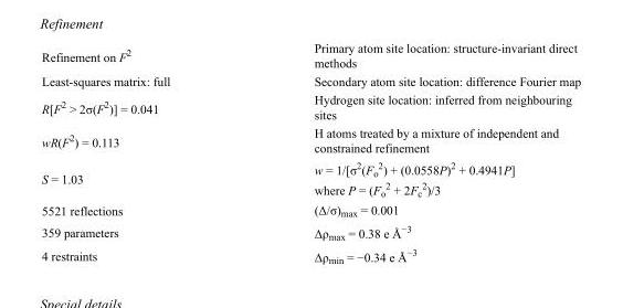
<table><tbody><tr><td>Refinement on F<sup>2</sup></td><td>Primary atom site location: structure-invariant direct methods</td></tr><tr><td>Least-squares matrix: full</td><td>Secondary atom site location: difference Fourier map</td></tr><tr><td>R[F<sup>2</sup> &gt; 2σ(F<sup>2</sup>)] = 0.041</td><td>Hydrogen site location: inferred from neighbouring sites</td></tr><tr><td>wR(F<sup>2</sup>) = 0.113</td><td>H atoms treated by a mixture of independent and constrained refinement</td></tr><tr><td>S = 1.03</td><td>w = 1/[σ<sup>2</sup>(F<sub>o</sub> <sup>2</sup>) + (0.0558P)<sup>2</sup> + 0.4941P] where P = (F<sub>o</sub> <sup>2</sup> + 2F<sub>c</sub> <sup>2</sup>)/3</td></tr><tr><td>5521 reflections</td><td>(Δ/σ)<sub>max</sub> = 0.001</td></tr><tr><td>359 parameters</td><td>Δρ<sub>max</sub> = 0.38 e Å<sup>−3</sup></td></tr><tr><td>4 restraints</td><td>Δρ<sub>min</sub> = −0.34 e Å<sup>−3</sup></td></tr></tbody></table>